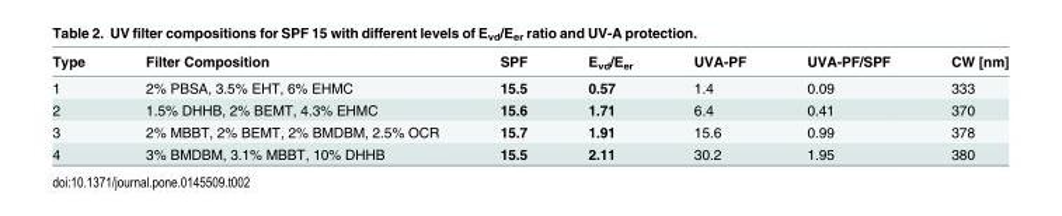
<table><thead><tr><td>Type</td><td>Filter Composition</td><td>SPF</td><td>E<sub>vd</sub>/E<sub>er</sub></td><td>UVA-PF</td><td>UVA-PF/SPF</td><td>CW [nm]</td></tr></thead><tbody><tr><td>1</td><td>2% PBSA, 3.5% EHT, 6% EHMC</td><td>15.5</td><td>0.57</td><td>1.4</td><td>0.09</td><td>333</td></tr><tr><td>2</td><td>1.5% DHHB, 2% BEMT, 4.3% EHMC</td><td>15.6</td><td>1.71</td><td>6.4</td><td>0.41</td><td>370</td></tr><tr><td>3</td><td>2% MBBT, 2% BEMT, 2% BMDBM, 2.5% OCR</td><td>15.7</td><td>1.91</td><td>15.6</td><td>0.99</td><td>378</td></tr><tr><td>4</td><td>3% BMDBM, 3.1% MBBT, 10% DHHB</td><td>15.5</td><td>2.11</td><td>30.2</td><td>1.95</td><td>380</td></tr></tbody></table>